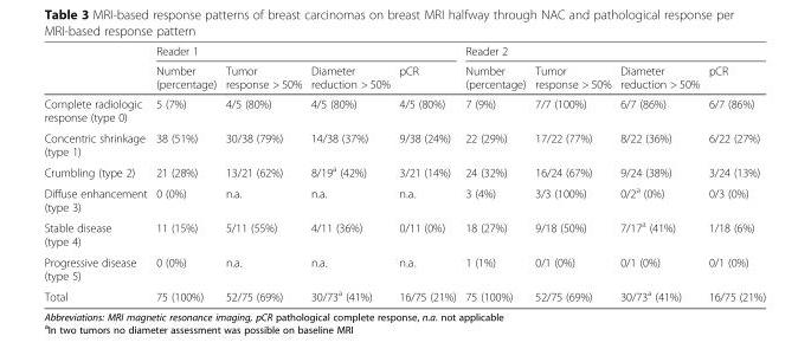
<table><thead><tr><td rowspan="2"></td><td colspan="4">Reader 1</td><td colspan="4">Reader 2</td></tr><tr><td>Number (percentage)</td><td>Tumor response &gt; 50%</td><td>Diameter reduction &gt; 50%</td><td>pCR</td><td>Number (percentage)</td><td>Tumor response &gt; 50%</td><td>Diameter reduction &gt; 50%</td><td>pCR</td></tr></thead><tbody><tr><td>Complete radiologic response (type 0)</td><td>5 (7%)</td><td>4/5 (80%)</td><td>4/5 (80%)</td><td>4/5 (80%)</td><td>7 (9%)</td><td>7/7 (100%)</td><td>6/7 (86%)</td><td>6/7 (86%)</td></tr><tr><td>Concentric shrinkage (type 1)</td><td>38 (51%)</td><td>30/38 (79%)</td><td>14/38 (37%)</td><td>9/38 (24%)</td><td>22 (29%)</td><td>17/22 (77%)</td><td>8/22 (36%)</td><td>6/22 (27%)</td></tr><tr><td>Crumbling (type 2)</td><td>21 (28%)</td><td>13/21 (62%)</td><td>8/19<sup>a</sup> (42%)</td><td>3/21 (14%)</td><td>24 (32%)</td><td>16/24 (67%)</td><td>9/24 (38%)</td><td>3/24 (13%)</td></tr><tr><td>Diffuse enhancement (type 3)</td><td>0 (0%)</td><td>n.a.</td><td>n.a.</td><td>n.a.</td><td>3 (4%)</td><td>3/3 (100%)</td><td>0/2<sup>a</sup> (0%)</td><td>0/3 (0%)</td></tr><tr><td>Stable disease (type 4)</td><td>11 (15%)</td><td>5/11 (55%)</td><td>4/11 (36%)</td><td>0/11 (0%)</td><td>18 (27%)</td><td>9/18 (50%)</td><td>7/17<sup>a</sup> (41%)</td><td>1/18 (6%)</td></tr><tr><td>Progressive disease (type 5)</td><td>0 (0%)</td><td>n.a.</td><td>n.a.</td><td>n.a.</td><td>1 (1%)</td><td>0/1 (0%)</td><td>0/1 (0%)</td><td>0/1 (0%)</td></tr><tr><td>Total</td><td>75 (100%)</td><td>52/75 (69%)</td><td>30/73<sup>a</sup> (41%)</td><td>16/75 (21%)</td><td>75 (100%)</td><td>52/75 (69%)</td><td>30/73<sup>a</sup> (41%)</td><td>16/75 (21%)</td></tr></tbody></table>